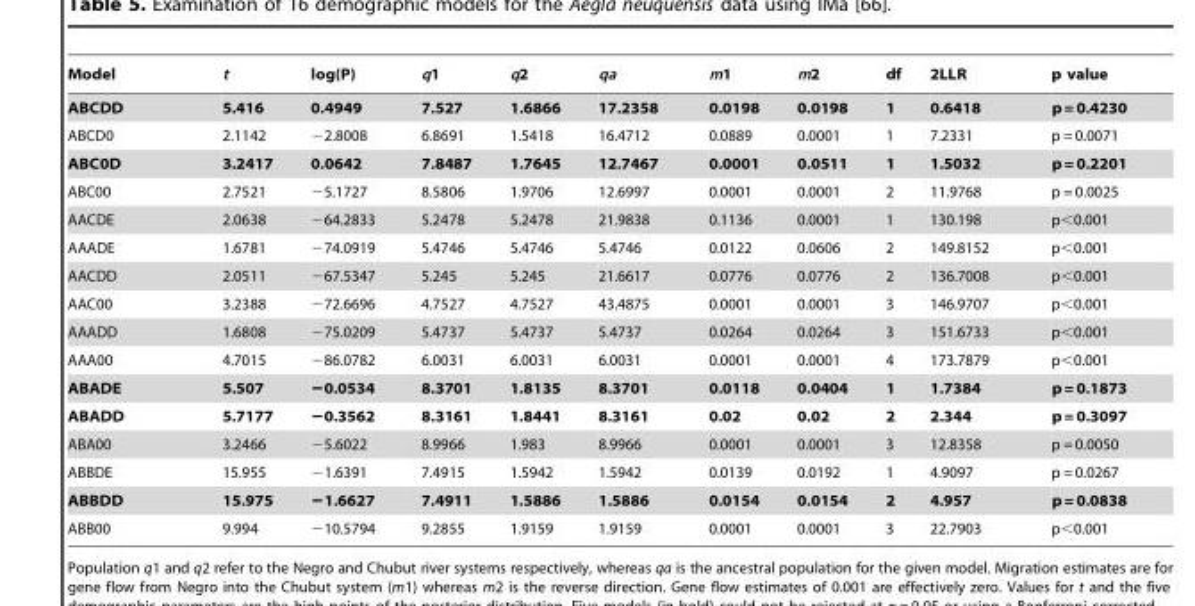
<table><thead><tr><td>Model</td><td>t</td><td>log(P)</td><td>q1</td><td>q2</td><td>qa</td><td>m1</td><td>m2</td><td>df</td><td>2LLR</td><td>p value</td></tr></thead><tbody><tr><td>ABCDD</td><td>5.416</td><td>0.4949</td><td>7.527</td><td>1.6866</td><td>17.2358</td><td>0.0198</td><td>0.0198</td><td>1</td><td>0.6418</td><td>p = 0.4230</td></tr><tr><td>ABCD0</td><td>2.1142</td><td>−2.8008</td><td>6.8691</td><td>1.5418</td><td>16.4712</td><td>0.0889</td><td>0.0001</td><td>1</td><td>7.2331</td><td>p = 0.0071</td></tr><tr><td>ABC0D</td><td>3.2417</td><td>0.0642</td><td>7.8487</td><td>1.7645</td><td>12.7467</td><td>0.0001</td><td>0.0511</td><td>1</td><td>1.5032</td><td>p = 0.2201</td></tr><tr><td>ABC00</td><td>2.7521</td><td>−5.1727</td><td>8.5806</td><td>1.9706</td><td>12.6997</td><td>0.0001</td><td>0.0001</td><td>2</td><td>11.9768</td><td>p = 0.0025</td></tr><tr><td>AACDE</td><td>2.0638</td><td>−64.2833</td><td>5.2478</td><td>5.2478</td><td>21.9838</td><td>0.1136</td><td>0.0001</td><td>1</td><td>130.198</td><td>p&lt;0.001</td></tr><tr><td>AAADE</td><td>1.6781</td><td>−74.0919</td><td>5.4746</td><td>5.4746</td><td>5.4746</td><td>0.0122</td><td>0.0606</td><td>2</td><td>149.8152</td><td>p&lt;0.001</td></tr><tr><td>AACDD</td><td>2.0511</td><td>−67.5347</td><td>5.245</td><td>5.245</td><td>21.6617</td><td>0.0776</td><td>0.0776</td><td>2</td><td>136.7008</td><td>p&lt;0.001</td></tr><tr><td>AAC00</td><td>3.2388</td><td>−72.6696</td><td>4.7527</td><td>4.7527</td><td>43.4875</td><td>0.0001</td><td>0.0001</td><td>3</td><td>146.9707</td><td>p&lt;0.001</td></tr><tr><td>AAADD</td><td>1.6808</td><td>−75.0209</td><td>5.4737</td><td>5.4737</td><td>5.4737</td><td>0.0264</td><td>0.0264</td><td>3</td><td>151.6733</td><td>p&lt;0.001</td></tr><tr><td>AAA00</td><td>4.7015</td><td>−86.0782</td><td>6.0031</td><td>6.0031</td><td>6.0031</td><td>0.0001</td><td>0.0001</td><td>4</td><td>173.7879</td><td>p&lt;0.001</td></tr><tr><td>ABADE</td><td>5.507</td><td>−0.0534</td><td>8.3701</td><td>1.8135</td><td>8.3701</td><td>0.0118</td><td>0.0404</td><td>1</td><td>1.7384</td><td>p = 0.1873</td></tr><tr><td>ABADD</td><td>5.7177</td><td>−0.3562</td><td>8.3161</td><td>1.8441</td><td>8.3161</td><td>0.02</td><td>0.02</td><td>2</td><td>2.344</td><td>p = 0.3097</td></tr><tr><td>ABA00</td><td>3.2466</td><td>−5.6022</td><td>8.9966</td><td>1.983</td><td>8.9966</td><td>0.0001</td><td>0.0001</td><td>3</td><td>12.8358</td><td>p = 0.0050</td></tr><tr><td>ABBDE</td><td>15.955</td><td>−1.6391</td><td>7.4915</td><td>1.5942</td><td>1.5942</td><td>0.0139</td><td>0.0192</td><td>1</td><td>4.9097</td><td>p = 0.0267</td></tr><tr><td>ABBDD</td><td>15.975</td><td>−1.6627</td><td>7.4911</td><td>1.5886</td><td>1.5886</td><td>0.0154</td><td>0.0154</td><td>2</td><td>4.957</td><td>p = 0.0838</td></tr><tr><td>ABB00</td><td>9.994</td><td>−10.5794</td><td>9.2855</td><td>1.9159</td><td>1.9159</td><td>0.0001</td><td>0.0001</td><td>3</td><td>22.7903</td><td>p&lt;0.001</td></tr></tbody></table>